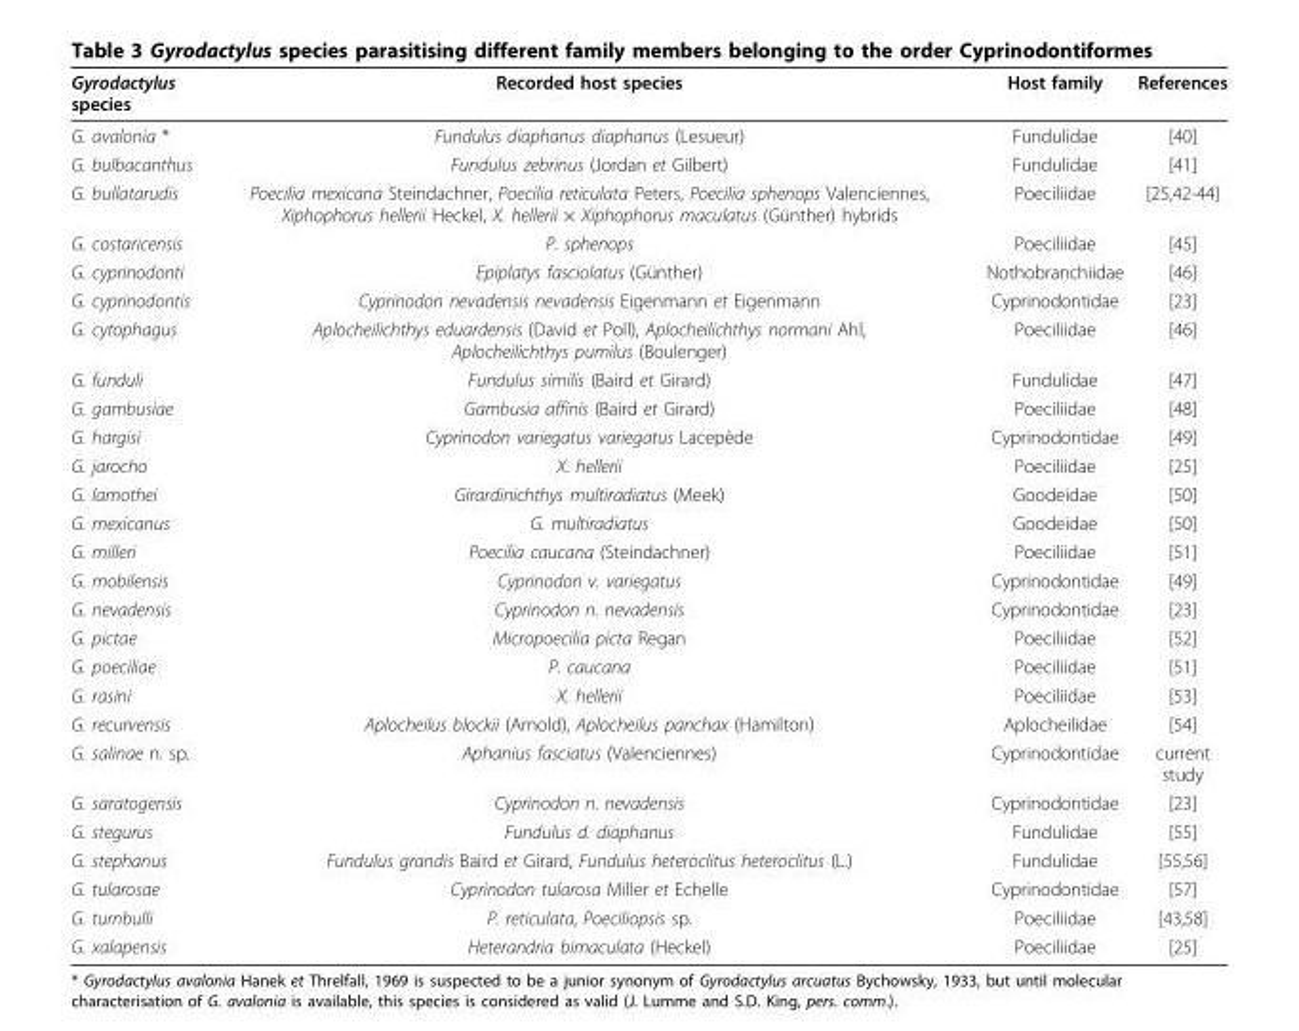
<table><thead><tr><td>Gyrodactylus species</td><td>Recorded host species</td><td>Host family</td><td>References</td></tr></thead><tbody><tr><td>G. avalonia *</td><td>Fundulus diaphanus diaphanus (Lesueur)</td><td>Fundulidae</td><td>[40]</td></tr><tr><td>G. bulbacanthus</td><td>Fundulus zebrinus (Jordan et Gilbert)</td><td>Fundulidae</td><td>[41]</td></tr><tr><td>G. bullatarudis</td><td>Poecilia mexicana Steindachner, Poecilia reticulata Peters, Poecilia sphenops Valenciennes, Xiphophorus hellerii Heckel, X. hellerii × Xiphophorus maculatus (Günther) hybrids</td><td>Poeciliidae</td><td>[25,42-44]</td></tr><tr><td>G. costaricensis</td><td>P. sphenops</td><td>Poeciliidae</td><td>[45]</td></tr><tr><td>G. cyprinodonti</td><td>Epiplatys fasciolatus (Günther)</td><td>Nothobranchiidae</td><td>[46]</td></tr><tr><td>G. cyprinodontis</td><td>Cyprinodon nevadensis nevadensis Eigenmann et Eigenmann</td><td>Cyprinodontidae</td><td>[23]</td></tr><tr><td>G. cytophagus</td><td>Aplocheilichthys eduardensis (David et Poll), Aplocheilichthys normani Ahl, Aplocheilichthys pumilus (Boulenger)</td><td>Poeciliidae</td><td>[46]</td></tr><tr><td>G. funduli</td><td>Fundulus similis (Baird et Girard)</td><td>Fundulidae</td><td>[47]</td></tr><tr><td>G. gambusiae</td><td>Gambusia affinis (Baird et Girard)</td><td>Poeciliidae</td><td>[48]</td></tr><tr><td>G. hargisi</td><td>Cyprinodon variegatus variegatus Lacepède</td><td>Cyprinodontidae</td><td>[49]</td></tr><tr><td>G. jarocho</td><td>X. hellerii</td><td>Poeciliidae</td><td>[25]</td></tr><tr><td>G. lamothei</td><td>Girardinichthys multiradiatus (Meek)</td><td>Goodeidae</td><td>[50]</td></tr><tr><td>G. mexicanus</td><td>G. multiradiatus</td><td>Goodeidae</td><td>[50]</td></tr><tr><td>G. milleri</td><td>Poecilia caucana (Steindachner)</td><td>Poeciliidae</td><td>[51]</td></tr><tr><td>G. mobilensis</td><td>Cyprinodon v. variegatus</td><td>Cyprinodontidae</td><td>[49]</td></tr><tr><td>G. nevadensis</td><td>Cyprinodon n. nevadensis</td><td>Cyprinodontidae</td><td>[23]</td></tr><tr><td>G. pictae</td><td>Micropoecilia picta Regan</td><td>Poeciliidae</td><td>[52]</td></tr><tr><td>G. poeciliae</td><td>P. caucana</td><td>Poeciliidae</td><td>[51]</td></tr><tr><td>G. rasini</td><td>X. hellerii</td><td>Poeciliidae</td><td>[53]</td></tr><tr><td>G. recurvensis</td><td>Aplocheilus blockii (Arnold), Aplocheilus panchax (Hamilton)</td><td>Aplocheilidae</td><td>[54]</td></tr><tr><td>G. salinae n. sp.</td><td>Aphanius fasciatus (Valenciennes)</td><td>Cyprinodontidae</td><td>current study</td></tr><tr><td>G. saratogensis</td><td>Cyprinodon n. nevadensis</td><td>Cyprinodontidae</td><td>[23]</td></tr><tr><td>G. stegurus</td><td>Fundulus d. diaphanus</td><td>Fundulidae</td><td>[55]</td></tr><tr><td>G. stephanus</td><td>Fundulus grandis Baird et Girard, Fundulus heteroclitus heteroclitus (L.)</td><td>Fundulidae</td><td>[55,56]</td></tr><tr><td>G. tularosae</td><td>Cyprinodon tularosa Miller et Echelle</td><td>Cyprinodontidae</td><td>[57]</td></tr><tr><td>G. turnbulli</td><td>P. reticulata, Poeciliopsis sp.</td><td>Poeciliidae</td><td>[43,58]</td></tr><tr><td>G. xalapensis</td><td>Heterandria bimaculata (Heckel)</td><td>Poeciliidae</td><td>[25]</td></tr></tbody></table>